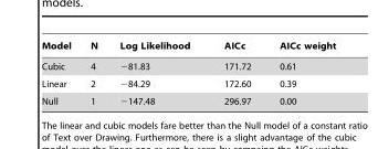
<table><thead><tr><td>Model</td><td>N</td><td>Log Likelihood</td><td>AICc</td><td>AICc weight</td></tr></thead><tbody><tr><td>Cubic</td><td>4</td><td>−81.83</td><td>171.72</td><td>0.61</td></tr><tr><td>Linear</td><td>2</td><td>−84.29</td><td>172.60</td><td>0.39</td></tr><tr><td>Null</td><td>1</td><td>−147.48</td><td>296.97</td><td>0.00</td></tr></tbody></table>